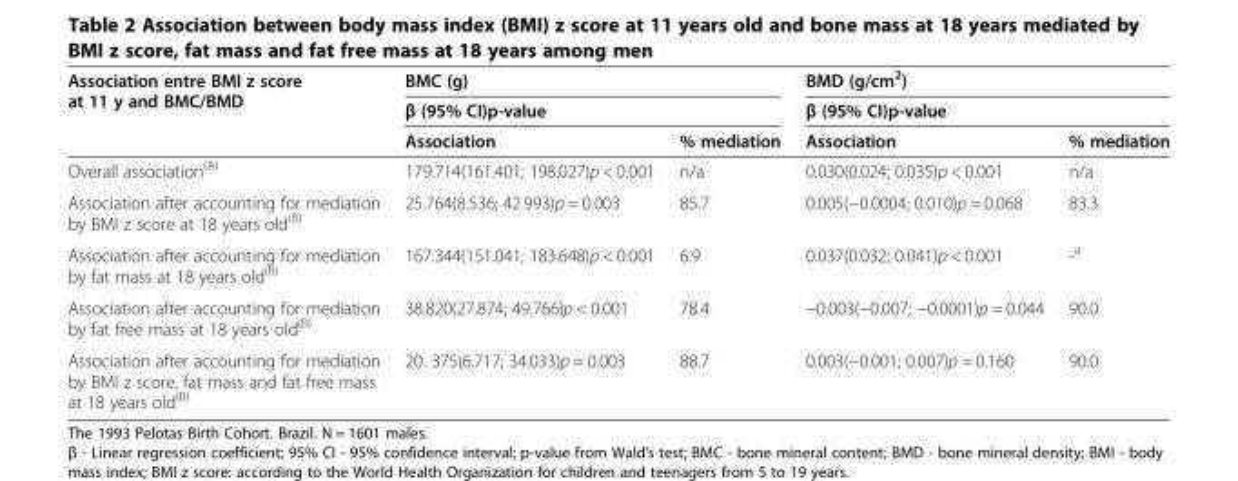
<table><thead><tr><td rowspan="3">Association entre BMI z score at 11 y and BMC/BMD</td><td rowspan="2" colspan="2">BMC (g) β (95% CI)p-value</td><td rowspan="2" colspan="2">BMD (g/cm<sup>2</sup>) β (95% CI)p-value</td></tr><tr></tr><tr><td>Association</td><td>% mediation</td><td>Association</td><td>% mediation</td></tr></thead><tbody><tr><td>Overall association<sup>(A)</sup></td><td>179.714(161.401; 198.027)p &lt; 0.001</td><td>n/a</td><td>0.030(0.024; 0.035)p &lt; 0.001</td><td>n/a</td></tr><tr><td>Association after accounting for mediation by BMI z score at 18 years old<sup>(B)</sup></td><td>25.764(8.536; 42.993)p = 0.003</td><td>85.7</td><td>0.005(−0.0004; 0.010)p = 0.068</td><td>83.3</td></tr><tr><td>Association after accounting for mediation by fat mass at 18 years old<sup>(B)</sup></td><td>167.344(151.041; 183.648)p &lt; 0.001</td><td>6.9</td><td>0.037(0.032; 0.041)p &lt; 0.001</td><td>-<sup>a</sup></td></tr><tr><td>Association after accounting for mediation by fat free mass at 18 years old<sup>(B)</sup></td><td>38.820(27.874; 49.766)p &lt; 0.001</td><td>78.4</td><td>−0.003(−0.007; −0.0001)p = 0.044</td><td>90.0</td></tr><tr><td>Association after accounting for mediation by BMI z score, fat mass and fat free mass at 18 years old<sup>(B)</sup></td><td>20. 375(6.717; 34.033)p = 0.003</td><td>88.7</td><td>0.003(−0.001; 0.007)p = 0.160</td><td>90.0</td></tr></tbody></table>